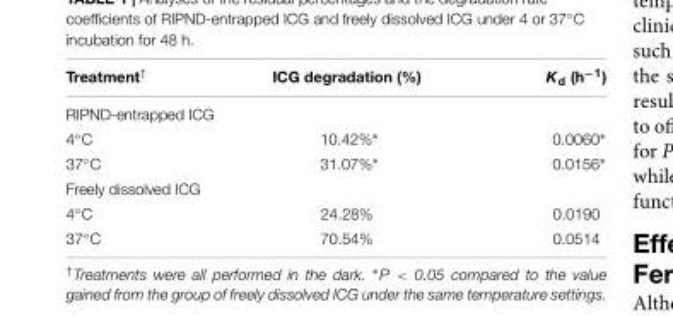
<table><thead><tr><td>Treatment<sup>†</sup></td><td>ICG degradation (%)</td><td>K<sub>d</sub> (h<sup>−1</sup>)</td></tr></thead><tbody><tr><td colspan="3">RIPND-entrapped ICG</td></tr><tr><td>4◦C</td><td>10.42%∗</td><td>0.0060∗</td></tr><tr><td>37◦C</td><td>31.07%∗</td><td>0.0156∗</td></tr><tr><td colspan="3">Freely dissolved ICG</td></tr><tr><td>4◦C</td><td>24.28%</td><td>0.0190</td></tr><tr><td>37◦C</td><td>70.54%</td><td>0.0514</td></tr></tbody></table>